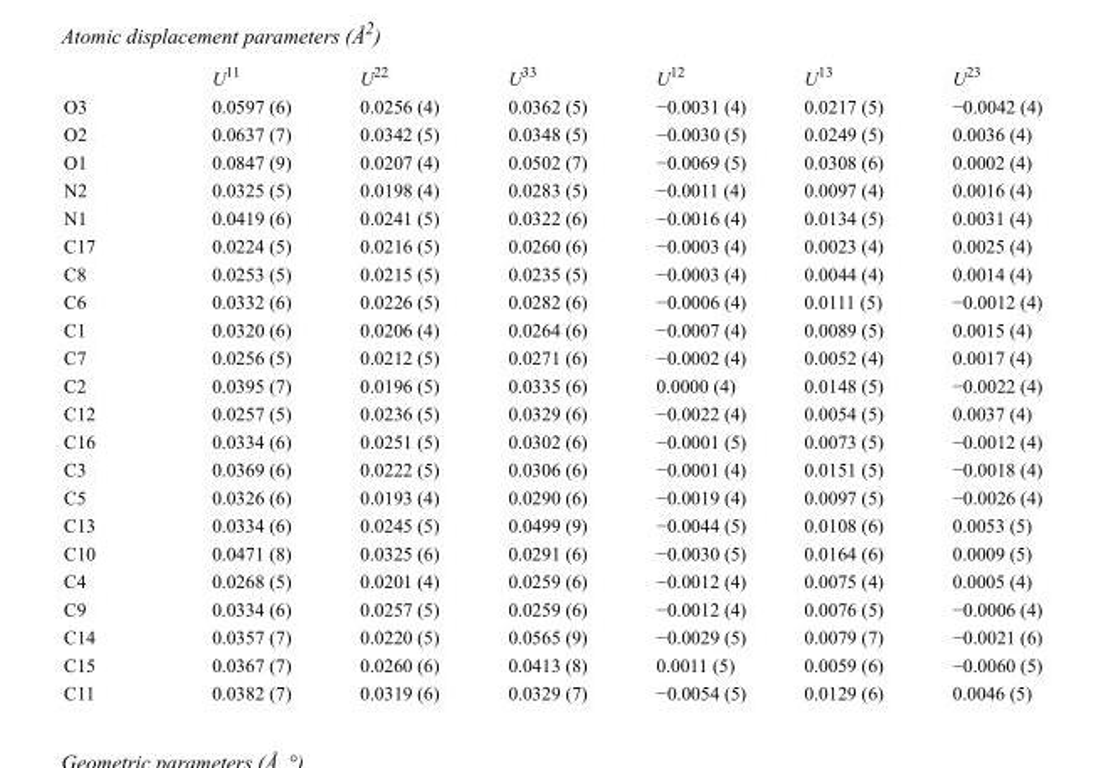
<table><thead><tr><td></td><td>U<sup>11</sup></td><td>U<sup>22</sup></td><td>U<sup>33</sup></td><td>U<sup>12</sup></td><td>U<sup>13</sup></td><td>U<sup>23</sup></td></tr></thead><tbody><tr><td>O3</td><td>0.0597 (6)</td><td>0.0256 (4)</td><td>0.0362 (5)</td><td>−0.0031 (4)</td><td>0.0217 (5)</td><td>−0.0042 (4)</td></tr><tr><td>O2</td><td>0.0637 (7)</td><td>0.0342 (5)</td><td>0.0348 (5)</td><td>−0.0030 (5)</td><td>0.0249 (5)</td><td>0.0036 (4)</td></tr><tr><td>O1</td><td>0.0847 (9)</td><td>0.0207 (4)</td><td>0.0502 (7)</td><td>−0.0069 (5)</td><td>0.0308 (6)</td><td>0.0002 (4)</td></tr><tr><td>N2</td><td>0.0325 (5)</td><td>0.0198 (4)</td><td>0.0283 (5)</td><td>−0.0011 (4)</td><td>0.0097 (4)</td><td>0.0016 (4)</td></tr><tr><td>N1</td><td>0.0419 (6)</td><td>0.0241 (5)</td><td>0.0322 (6)</td><td>−0.0016 (4)</td><td>0.0134 (5)</td><td>0.0031 (4)</td></tr><tr><td>C17</td><td>0.0224 (5)</td><td>0.0216 (5)</td><td>0.0260 (6)</td><td>−0.0003 (4)</td><td>0.0023 (4)</td><td>0.0025 (4)</td></tr><tr><td>C8</td><td>0.0253 (5)</td><td>0.0215 (5)</td><td>0.0235 (5)</td><td>−0.0003 (4)</td><td>0.0044 (4)</td><td>0.0014 (4)</td></tr><tr><td>C6</td><td>0.0332 (6)</td><td>0.0226 (5)</td><td>0.0282 (6)</td><td>−0.0006 (4)</td><td>0.0111 (5)</td><td>−0.0012 (4)</td></tr><tr><td>C1</td><td>0.0320 (6)</td><td>0.0206 (4)</td><td>0.0264 (6)</td><td>−0.0007 (4)</td><td>0.0089 (5)</td><td>0.0015 (4)</td></tr><tr><td>C7</td><td>0.0256 (5)</td><td>0.0212 (5)</td><td>0.0271 (6)</td><td>−0.0002 (4)</td><td>0.0052 (4)</td><td>0.0017 (4)</td></tr><tr><td>C2</td><td>0.0395 (7)</td><td>0.0196 (5)</td><td>0.0335 (6)</td><td>0.0000 (4)</td><td>0.0148 (5)</td><td>−0.0022 (4)</td></tr><tr><td>C12</td><td>0.0257 (5)</td><td>0.0236 (5)</td><td>0.0329 (6)</td><td>−0.0022 (4)</td><td>0.0054 (5)</td><td>0.0037 (4)</td></tr><tr><td>C16</td><td>0.0334 (6)</td><td>0.0251 (5)</td><td>0.0302 (6)</td><td>−0.0001 (5)</td><td>0.0073 (5)</td><td>−0.0012 (4)</td></tr><tr><td>C3</td><td>0.0369 (6)</td><td>0.0222 (5)</td><td>0.0306 (6)</td><td>−0.0001 (4)</td><td>0.0151 (5)</td><td>−0.0018 (4)</td></tr><tr><td>C5</td><td>0.0326 (6)</td><td>0.0193 (4)</td><td>0.0290 (6)</td><td>−0.0019 (4)</td><td>0.0097 (5)</td><td>−0.0026 (4)</td></tr><tr><td>C13</td><td>0.0334 (6)</td><td>0.0245 (5)</td><td>0.0499 (9)</td><td>−0.0044 (5)</td><td>0.0108 (6)</td><td>0.0053 (5)</td></tr><tr><td>C10</td><td>0.0471 (8)</td><td>0.0325 (6)</td><td>0.0291 (6)</td><td>−0.0030 (5)</td><td>0.0164 (6)</td><td>0.0009 (5)</td></tr><tr><td>C4</td><td>0.0268 (5)</td><td>0.0201 (4)</td><td>0.0259 (6)</td><td>−0.0012 (4)</td><td>0.0075 (4)</td><td>0.0005 (4)</td></tr><tr><td>C9</td><td>0.0334 (6)</td><td>0.0257 (5)</td><td>0.0259 (6)</td><td>−0.0012 (4)</td><td>0.0076 (5)</td><td>−0.0006 (4)</td></tr><tr><td>C14</td><td>0.0357 (7)</td><td>0.0220 (5)</td><td>0.0565 (9)</td><td>−0.0029 (5)</td><td>0.0079 (7)</td><td>−0.0021 (6)</td></tr><tr><td>C15</td><td>0.0367 (7)</td><td>0.0260 (6)</td><td>0.0413 (8)</td><td>0.0011 (5)</td><td>0.0059 (6)</td><td>−0.0060 (5)</td></tr><tr><td>C11</td><td>0.0382 (7)</td><td>0.0319 (6)</td><td>0.0329 (7)</td><td>−0.0054 (5)</td><td>0.0129 (6)</td><td>0.0046 (5)</td></tr></tbody></table>